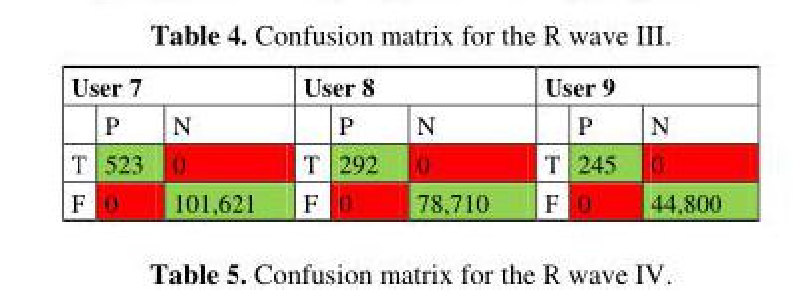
<table><thead><tr><td colspan="3">User 7</td><td colspan="3">User 8</td><td colspan="3">User 9</td></tr><tr><td></td><td>P</td><td>N</td><td></td><td>P</td><td>N</td><td></td><td>P</td><td>N</td></tr></thead><tbody><tr><td>T</td><td>523</td><td>0</td><td>T</td><td>292</td><td>0</td><td>T</td><td>245</td><td>0</td></tr><tr><td>F</td><td>0</td><td>101,621</td><td>F</td><td>0</td><td>78,710</td><td>F</td><td>0</td><td>44,800</td></tr></tbody></table>